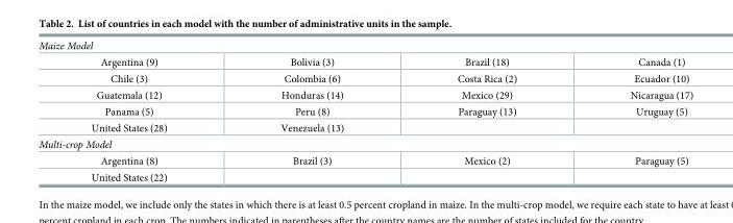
<table><tbody><tr><td colspan="4">Maize Model</td></tr><tr><td>Argentina (9)</td><td>Bolivia (3)</td><td>Brazil (18)</td><td>Canada (1)</td></tr><tr><td>Chile (3)</td><td>Colombia (6)</td><td>Costa Rica (2)</td><td>Ecuador (10)</td></tr><tr><td>Guatemala (12)</td><td>Honduras (14)</td><td>Mexico (29)</td><td>Nicaragua (17)</td></tr><tr><td>Panama (5)</td><td>Peru (8)</td><td>Paraguay (13)</td><td>Uruguay (5)</td></tr><tr><td>United States (28)</td><td>Venezuela (13)</td><td></td><td></td></tr><tr><td colspan="4">Multi-crop Model</td></tr><tr><td>Argentina (8)</td><td>Brazil (3)</td><td>Mexico (2)</td><td>Paraguay (5)</td></tr><tr><td>United States (22)</td><td></td><td></td><td></td></tr></tbody></table>